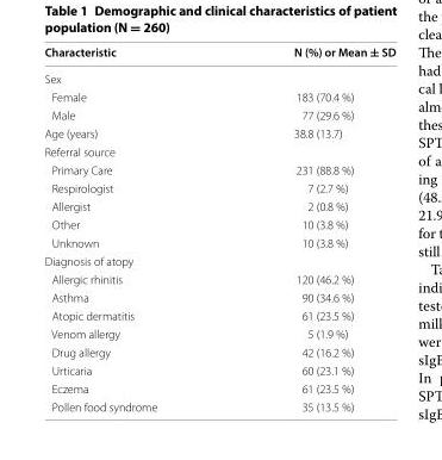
<table><thead><tr><td>Characteristic</td><td>N (%) or Mean ± SD</td></tr></thead><tbody><tr><td colspan="2">Sex</td></tr><tr><td>Female</td><td>183 (70.4 %)</td></tr><tr><td>Male</td><td>77 (29.6 %)</td></tr><tr><td>Age (years)</td><td>38.8 (13.7)</td></tr><tr><td colspan="2">Referral source</td></tr><tr><td>Primary Care</td><td>231 (88.8 %)</td></tr><tr><td>Respirologist</td><td>7 (2.7 %)</td></tr><tr><td>Allergist</td><td>2 (0.8 %)</td></tr><tr><td>Other</td><td>10 (3.8 %)</td></tr><tr><td>Unknown</td><td>10 (3.8 %)</td></tr><tr><td colspan="2">Diagnosis of atopy</td></tr><tr><td>Allergic rhinitis</td><td>120 (46.2 %)</td></tr><tr><td>Asthma</td><td>90 (34.6 %)</td></tr><tr><td>Atopic dermatitis</td><td>61 (23.5 %)</td></tr><tr><td>Venom allergy</td><td>5 (1.9 %)</td></tr><tr><td>Drug allergy</td><td>42 (16.2 %)</td></tr><tr><td>Urticaria</td><td>60 (23.1 %)</td></tr><tr><td>Eczema</td><td>61 (23.5 %)</td></tr><tr><td>Pollen food syndrome</td><td>35 (13.5 %)</td></tr></tbody></table>